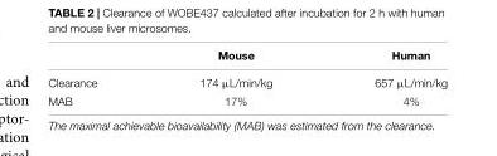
<table><thead><tr><td></td><td>Mouse</td><td>Human</td></tr></thead><tbody><tr><td>Clearance</td><td>174 µL/min/kg</td><td>657 µL/min/kg</td></tr><tr><td>MAB</td><td>17%</td><td>4%</td></tr></tbody></table>